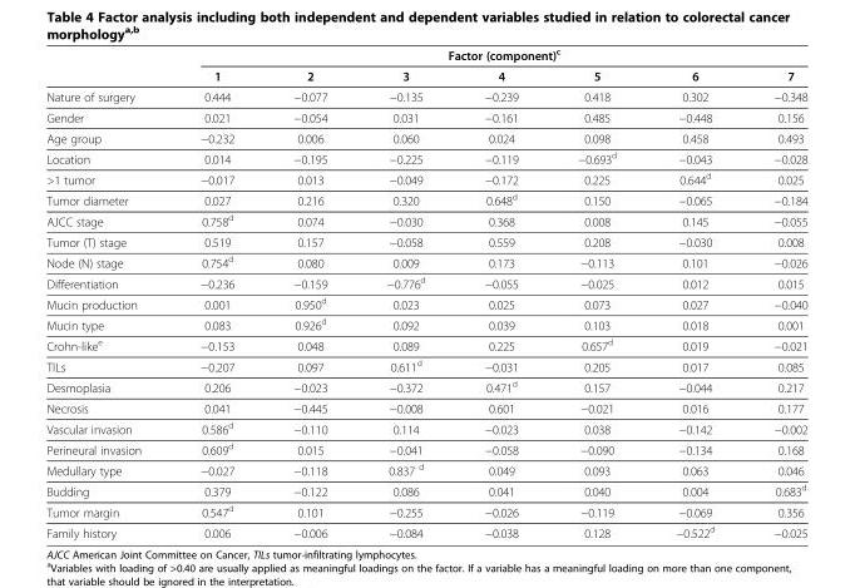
<table><thead><tr><td rowspan="2"></td><td colspan="7">Factor (component)<sup>c</sup></td></tr><tr><td>1</td><td>2</td><td>3</td><td>4</td><td>5</td><td>6</td><td>7</td></tr></thead><tbody><tr><td>Nature of surgery</td><td>0.444</td><td>−0.077</td><td>−0.135</td><td>−0.239</td><td>0.418</td><td>0.302</td><td>−0.348</td></tr><tr><td>Gender</td><td>0.021</td><td>−0.054</td><td>0.031</td><td>−0.161</td><td>0.485</td><td>−0.448</td><td>0.156</td></tr><tr><td>Age group</td><td>−0.232</td><td>0.006</td><td>0.060</td><td>0.024</td><td>0.098</td><td>0.458</td><td>0.493</td></tr><tr><td>Location</td><td>0.014</td><td>−0.195</td><td>−0.225</td><td>−0.119</td><td>−0.693<sup>d</sup></td><td>−0.043</td><td>−0.028</td></tr><tr><td>&gt;1 tumor</td><td>−0.017</td><td>0.013</td><td>−0.049</td><td>−0.172</td><td>0.225</td><td>0.644<sup>d</sup></td><td>0.025</td></tr><tr><td>Tumor diameter</td><td>0.027</td><td>0.216</td><td>0.320</td><td>0.648<sup>d</sup></td><td>0.150</td><td>−0.065</td><td>−0.184</td></tr><tr><td>AJCC stage</td><td>0.758<sup>d</sup></td><td>0.074</td><td>−0.030</td><td>0.368</td><td>0.008</td><td>0.145</td><td>−0.055</td></tr><tr><td>Tumor (T) stage</td><td>0.519</td><td>0.157</td><td>−0.058</td><td>0.559</td><td>0.208</td><td>−0.030</td><td>0.008</td></tr><tr><td>Node (N) stage</td><td>0.754<sup>d</sup></td><td>0.080</td><td>0.009</td><td>0.173</td><td>−0.113</td><td>0.101</td><td>−0.026</td></tr><tr><td>Differentiation</td><td>−0.236</td><td>−0.159</td><td>−0.776<sup>d</sup></td><td>−0.055</td><td>−0.025</td><td>0.012</td><td>0.015</td></tr><tr><td>Mucin production</td><td>0.001</td><td>0.950<sup>d</sup></td><td>0.023</td><td>0.025</td><td>0.073</td><td>0.027</td><td>−0.040</td></tr><tr><td>Mucin type</td><td>0.083</td><td>0.926<sup>d</sup></td><td>0.092</td><td>0.039</td><td>0.103</td><td>0.018</td><td>0.001</td></tr><tr><td>Crohn-like<sup>e</sup></td><td>−0.153</td><td>0.048</td><td>0.089</td><td>0.225</td><td>0.657<sup>d</sup></td><td>0.019</td><td>−0.021</td></tr><tr><td>TILs</td><td>−0.207</td><td>0.097</td><td>0.611<sup>d</sup></td><td>−0.031</td><td>0.205</td><td>0.017</td><td>0.085</td></tr><tr><td>Desmoplasia</td><td>0.206</td><td>−0.023</td><td>−0.372</td><td>0.471<sup>d</sup></td><td>0.157</td><td>−0.044</td><td>0.217</td></tr><tr><td>Necrosis</td><td>0.041</td><td>−0.445</td><td>−0.008</td><td>0.601</td><td>−0.021</td><td>0.016</td><td>0.177</td></tr><tr><td>Vascular invasion</td><td>0.586<sup>d</sup></td><td>−0.110</td><td>0.114</td><td>−0.023</td><td>0.038</td><td>−0.142</td><td>−0.002</td></tr><tr><td>Perineural invasion</td><td>0.609<sup>d</sup></td><td>0.015</td><td>−0.041</td><td>−0.058</td><td>−0.090</td><td>−0.134</td><td>0.168</td></tr><tr><td>Medullary type</td><td>−0.027</td><td>−0.118</td><td>0.837 <sup>d</sup></td><td>0.049</td><td>0.093</td><td>0.063</td><td>0.046</td></tr><tr><td>Budding</td><td>0.379</td><td>−0.122</td><td>0.086</td><td>0.041</td><td>0.040</td><td>0.004</td><td>0.683<sup>d</sup></td></tr><tr><td>Tumor margin</td><td>0.547<sup>d</sup></td><td>0.101</td><td>−0.255</td><td>−0.026</td><td>−0.119</td><td>−0.069</td><td>0.356</td></tr><tr><td>Family history</td><td>0.006</td><td>−0.006</td><td>−0.084</td><td>−0.038</td><td>0.128</td><td>−0.522<sup>d</sup></td><td>−0.025</td></tr></tbody></table>